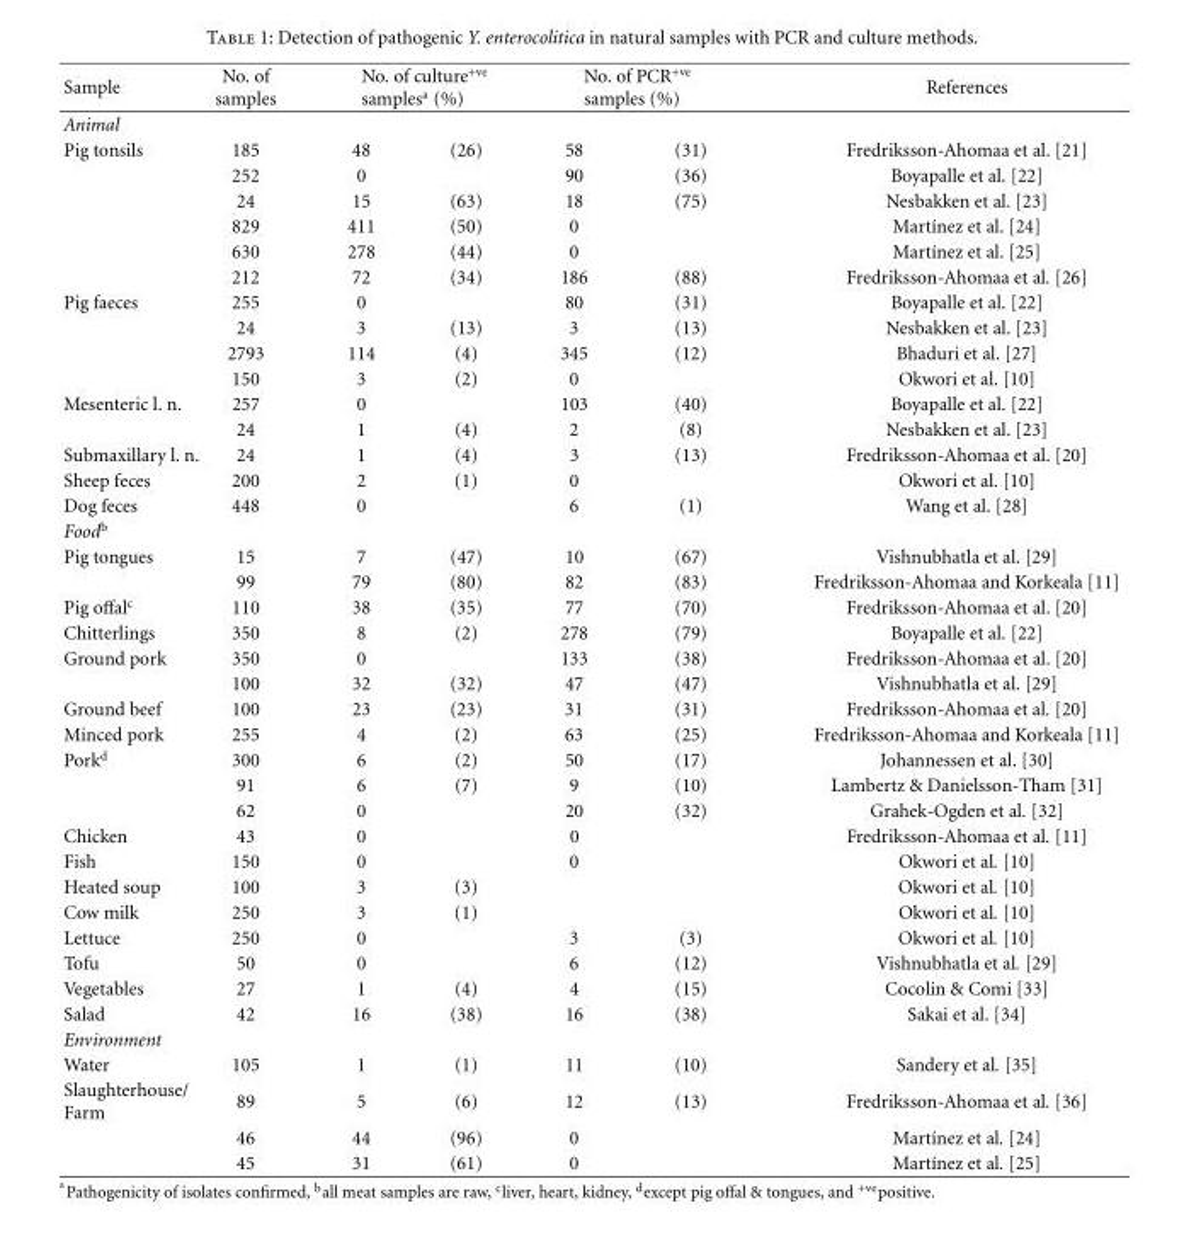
<table><thead><tr><td rowspan="3">Sample Animal Pig tonsils</td><td rowspan="3">No. of samples 185</td><td rowspan="2" colspan="2">No. of culture<sup>+ve</sup> samples<sup>a</sup> (%)</td><td rowspan="2" colspan="2">No. of PCR<sup>+ve</sup> samples (%)</td><td rowspan="3">References Fredriksson-Ahomaa et al. [21]</td></tr><tr></tr><tr><td>48</td><td>(26)</td><td>58</td><td>(31)</td></tr></thead><tbody><tr><td></td><td>252</td><td>0</td><td></td><td>90</td><td>(36)</td><td>Boyapalle et al. [22]</td></tr><tr><td></td><td>24</td><td>15</td><td>(63)</td><td>18</td><td>(75)</td><td>Nesbakken et al. [23]</td></tr><tr><td></td><td>829</td><td>411</td><td>(50)</td><td>0</td><td></td><td>Mart´ınez et al. [24]</td></tr><tr><td></td><td>630</td><td>278</td><td>(44)</td><td>0</td><td></td><td>Mart´ınez et al. [25]</td></tr><tr><td></td><td>212</td><td>72</td><td>(34)</td><td>186</td><td>(88)</td><td>Fredriksson-Ahomaa et al. [26]</td></tr><tr><td rowspan="4">Pig faeces</td><td>255</td><td>0</td><td></td><td>80</td><td>(31)</td><td>Boyapalle et al. [22]</td></tr><tr><td>24</td><td>3</td><td>(13)</td><td>3</td><td>(13)</td><td>Nesbakken et al. [23]</td></tr><tr><td>2793</td><td>114</td><td>(4)</td><td>345</td><td>(12)</td><td>Bhaduri et al. [27]</td></tr><tr><td>150</td><td>3</td><td>(2)</td><td>0</td><td></td><td>Okwori et al. [10]</td></tr><tr><td rowspan="2">Mesenteric l. n.</td><td>257</td><td>0</td><td></td><td>103</td><td>(40)</td><td>Boyapalle et al. [22]</td></tr><tr><td>24</td><td>1</td><td>(4)</td><td>2</td><td>(8)</td><td>Nesbakken et al. [23]</td></tr><tr><td>Submaxillary l. n.</td><td>24</td><td>1</td><td>(4)</td><td>3</td><td>(13)</td><td>Fredriksson-Ahomaa et al. [20]</td></tr><tr><td>Sheep feces</td><td>200</td><td>2</td><td>(1)</td><td>0</td><td></td><td>Okwori et al. [10]</td></tr><tr><td>Dog feces</td><td>448</td><td>0</td><td></td><td>6</td><td>(1)</td><td>Wang et al. [28]</td></tr><tr><td colspan="7">Food<sup>b</sup></td></tr><tr><td rowspan="2">Pig tongues</td><td>15</td><td>7</td><td>(47)</td><td>10</td><td>(67)</td><td>Vishnubhatla et al. [29]</td></tr><tr><td>99</td><td>79</td><td>(80)</td><td>82</td><td>(83)</td><td>Fredriksson-Ahomaa and Korkeala [11]</td></tr><tr><td>Pig offal<sup>c</sup></td><td>110</td><td>38</td><td>(35)</td><td>77</td><td>(70)</td><td>Fredriksson-Ahomaa et al. [20]</td></tr><tr><td>Chitterlings</td><td>350</td><td>8</td><td>(2)</td><td>278</td><td>(79)</td><td>Boyapalle et al. [22]</td></tr><tr><td rowspan="2">Ground pork</td><td>350</td><td>0</td><td></td><td>133</td><td>(38)</td><td>Fredriksson-Ahomaa et al. [20]</td></tr><tr><td>100</td><td>32</td><td>(32)</td><td>47</td><td>(47)</td><td>Vishnubhatla et al. [29]</td></tr><tr><td>Ground beef</td><td>100</td><td>23</td><td>(23)</td><td>31</td><td>(31)</td><td>Fredriksson-Ahomaa et al. [20]</td></tr><tr><td>Minced pork</td><td>255</td><td>4</td><td>(2)</td><td>63</td><td>(25)</td><td>Fredriksson-Ahomaa and Korkeala [11]</td></tr><tr><td rowspan="3">Pork<sup>d</sup></td><td>300</td><td>6</td><td>(2)</td><td>50</td><td>(17)</td><td>Johannessen et al. [30]</td></tr><tr><td>91</td><td>6</td><td>(7)</td><td>9</td><td>(10)</td><td>Lambertz &amp; Danielsson-Tham [31]</td></tr><tr><td>62</td><td>0</td><td></td><td>20</td><td>(32)</td><td>Grahek-Ogden et al. [32]</td></tr><tr><td>Chicken</td><td>43</td><td>0</td><td></td><td>0</td><td></td><td>Fredriksson-Ahomaa et al. [11]</td></tr><tr><td>Fish</td><td>150</td><td>0</td><td></td><td>0</td><td></td><td>Okwori et al. [10]</td></tr><tr><td>Heated soup</td><td>100</td><td>3</td><td>(3)</td><td></td><td></td><td>Okwori et al. [10]</td></tr><tr><td>Cow milk</td><td>250</td><td>3</td><td>(1)</td><td></td><td></td><td>Okwori et al. [10]</td></tr><tr><td>Lettuce</td><td>250</td><td>0</td><td></td><td>3</td><td>(3)</td><td>Okwori et al. [10]</td></tr><tr><td>Tofu</td><td>50</td><td>0</td><td></td><td>6</td><td>(12)</td><td>Vishnubhatla et al. [29]</td></tr><tr><td>Vegetables</td><td>27</td><td>1</td><td>(4)</td><td>4</td><td>(15)</td><td>Cocolin &amp; Comi [33]</td></tr><tr><td>Salad</td><td>42</td><td>16</td><td>(38)</td><td>16</td><td>(38)</td><td>Sakai et al. [34]</td></tr><tr><td colspan="7">Environment</td></tr><tr><td>Water</td><td>105</td><td>1</td><td>(1)</td><td>11</td><td>(10)</td><td>Sandery et al. [35]</td></tr><tr><td rowspan="3">Slaughterhouse/ Farm</td><td>89</td><td>5</td><td>(6)</td><td>12</td><td>(13)</td><td>Fredriksson-Ahomaa et al. [36]</td></tr><tr><td>46</td><td>44</td><td>(96)</td><td>0</td><td></td><td>Mart´ınez et al. [24]</td></tr><tr><td>45</td><td>31</td><td>(61)</td><td>0</td><td></td><td>Mart´ınez et al. [25]</td></tr></tbody></table>